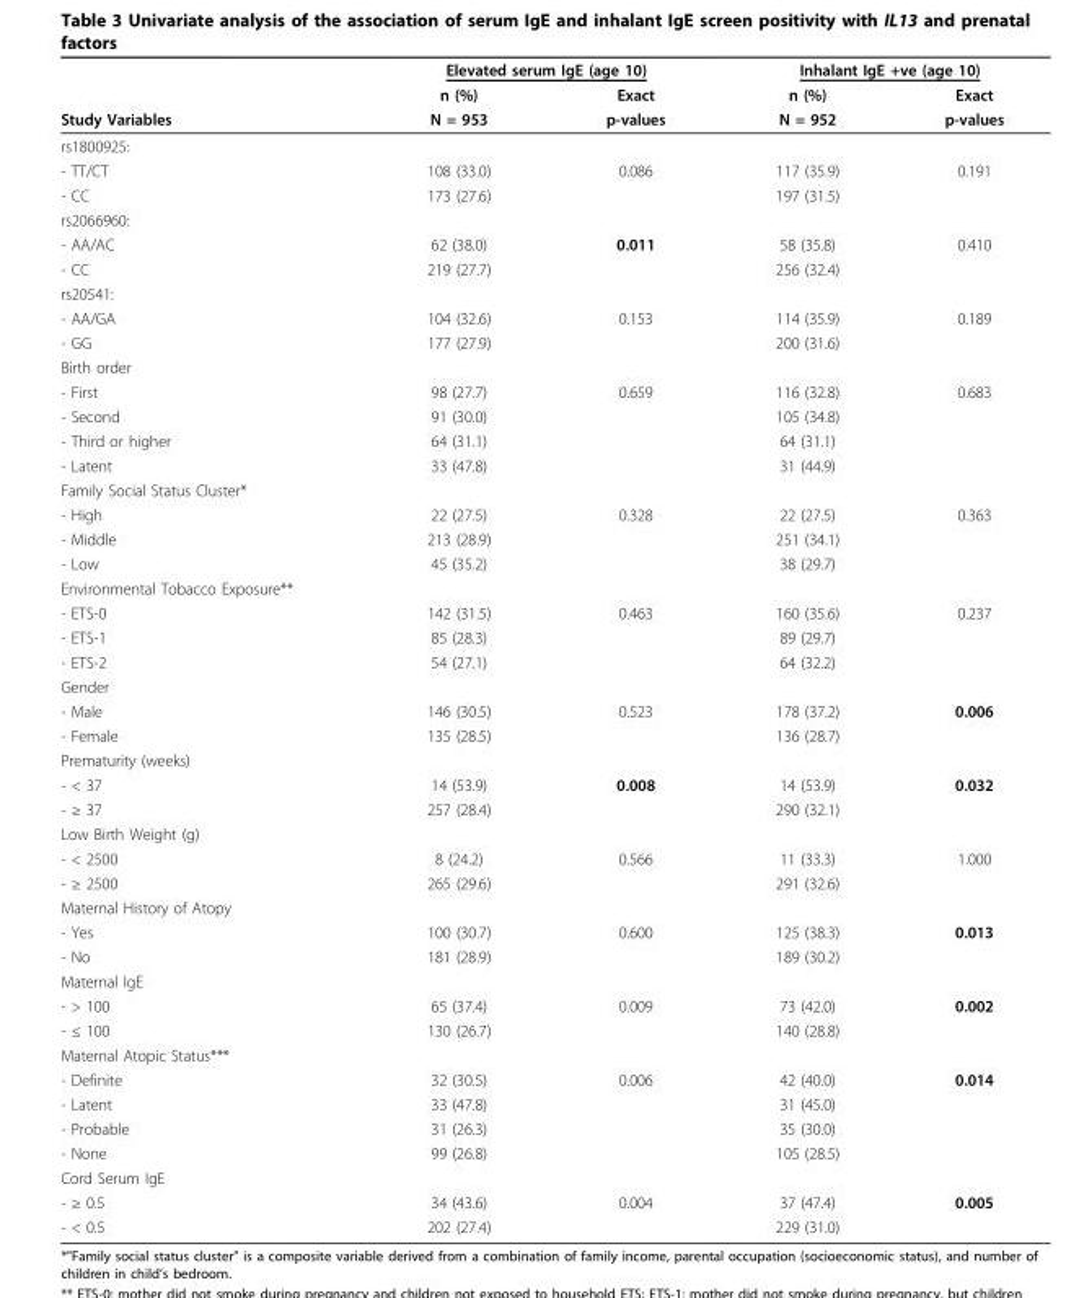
<table><thead><tr><td rowspan="3">Study Variables</td><td colspan="2">Elevated serum IgE (age 10)</td><td colspan="2">Inhalant IgE +ve (age 10)</td></tr><tr><td rowspan="2">n (%) N = 953</td><td rowspan="2">Exact p-values</td><td rowspan="2">n (%) N = 952</td><td rowspan="2">Exact p-values</td></tr><tr></tr></thead><tbody><tr><td colspan="5">rs1800925:</td></tr><tr><td>- TT/CT</td><td>108 (33.0)</td><td>0.086</td><td>117 (35.9)</td><td>0.191</td></tr><tr><td>- CC</td><td>173 (27.6)</td><td></td><td>197 (31.5)</td><td></td></tr><tr><td colspan="5">rs2066960:</td></tr><tr><td>- AA/AC</td><td>62 (38.0)</td><td>0.011</td><td>58 (35.8)</td><td>0.410</td></tr><tr><td>- CC</td><td>219 (27.7)</td><td></td><td>256 (32.4)</td><td></td></tr><tr><td colspan="5">rs20541:</td></tr><tr><td>- AA/GA</td><td>104 (32.6)</td><td>0.153</td><td>114 (35.9)</td><td>0.189</td></tr><tr><td>- GG</td><td>177 (27.9)</td><td></td><td>200 (31.6)</td><td></td></tr><tr><td colspan="5">Birth order</td></tr><tr><td>- First</td><td>98 (27.7)</td><td>0.659</td><td>116 (32.8)</td><td>0.683</td></tr><tr><td>- Second</td><td>91 (30.0)</td><td></td><td>105 (34.8)</td><td></td></tr><tr><td>- Third or higher</td><td>64 (31.1)</td><td></td><td>64 (31.1)</td><td></td></tr><tr><td>- Latent</td><td>33 (47.8)</td><td></td><td>31 (44.9)</td><td></td></tr><tr><td colspan="5">Family Social Status Cluster*</td></tr><tr><td>- High</td><td>22 (27.5)</td><td>0.328</td><td>22 (27.5)</td><td>0.363</td></tr><tr><td>- Middle</td><td>213 (28.9)</td><td></td><td>251 (34.1)</td><td></td></tr><tr><td>- Low</td><td>45 (35.2)</td><td></td><td>38 (29.7)</td><td></td></tr><tr><td colspan="5">Environmental Tobacco Exposure**</td></tr><tr><td>- ETS-0</td><td>142 (31.5)</td><td>0.463</td><td>160 (35.6)</td><td>0.237</td></tr><tr><td>- ETS-1</td><td>85 (28.3)</td><td></td><td>89 (29.7)</td><td></td></tr><tr><td>- ETS-2</td><td>54 (27.1)</td><td></td><td>64 (32.2)</td><td></td></tr><tr><td colspan="5">Gender</td></tr><tr><td>- Male</td><td>146 (30.5)</td><td>0.523</td><td>178 (37.2)</td><td>0.006</td></tr><tr><td>- Female</td><td>135 (28.5)</td><td></td><td>136 (28.7)</td><td></td></tr><tr><td colspan="5">Prematurity (weeks)</td></tr><tr><td>- &lt; 37</td><td>14 (53.9)</td><td>0.008</td><td>14 (53.9)</td><td>0.032</td></tr><tr><td>- ≥ 37</td><td>257 (28.4)</td><td></td><td>290 (32.1)</td><td></td></tr><tr><td colspan="5">Low Birth Weight (g)</td></tr><tr><td>- &lt; 2500</td><td>8 (24.2)</td><td>0.566</td><td>11 (33.3)</td><td>1.000</td></tr><tr><td>- ≥ 2500</td><td>265 (29.6)</td><td></td><td>291 (32.6)</td><td></td></tr><tr><td colspan="5">Maternal History of Atopy</td></tr><tr><td>- Yes</td><td>100 (30.7)</td><td>0.600</td><td>125 (38.3)</td><td>0.013</td></tr><tr><td>- No</td><td>181 (28.9)</td><td></td><td>189 (30.2)</td><td></td></tr><tr><td colspan="5">Maternal IgE</td></tr><tr><td>- &gt; 100</td><td>65 (37.4)</td><td>0.009</td><td>73 (42.0)</td><td>0.002</td></tr><tr><td>- ≤ 100</td><td>130 (26.7)</td><td></td><td>140 (28.8)</td><td></td></tr><tr><td colspan="5">Maternal Atopic Status***</td></tr><tr><td>- Definite</td><td>32 (30.5)</td><td>0.006</td><td>42 (40.0)</td><td>0.014</td></tr><tr><td>- Latent</td><td>33 (47.8)</td><td></td><td>31 (45.0)</td><td></td></tr><tr><td>- Probable</td><td>31 (26.3)</td><td></td><td>35 (30.0)</td><td></td></tr><tr><td>- None</td><td>99 (26.8)</td><td></td><td>105 (28.5)</td><td></td></tr><tr><td colspan="5">Cord Serum IgE</td></tr><tr><td>- ≥ 0.5</td><td>34 (43.6)</td><td>0.004</td><td>37 (47.4)</td><td>0.005</td></tr><tr><td>- &lt; 0.5</td><td>202 (27.4)</td><td></td><td>229 (31.0)</td><td></td></tr></tbody></table>